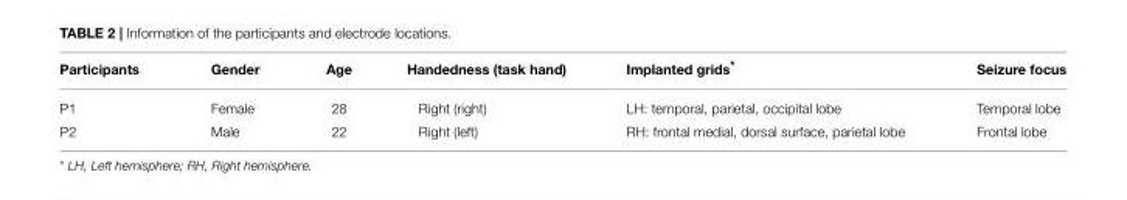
<table><thead><tr><td>Participants</td><td>Gender</td><td>Age</td><td>Handedness (task hand)</td><td>Implanted grids*</td><td>Seizure focus</td></tr></thead><tbody><tr><td>P1</td><td>Female</td><td>28</td><td>Right (right)</td><td>LH: temporal, parietal, occipital lobe</td><td>Temporal lobe</td></tr><tr><td>P2</td><td>Male</td><td>22</td><td>Right (left)</td><td>RH: frontal medial, dorsal surface, parietal lobe</td><td>Frontal lobe</td></tr></tbody></table>